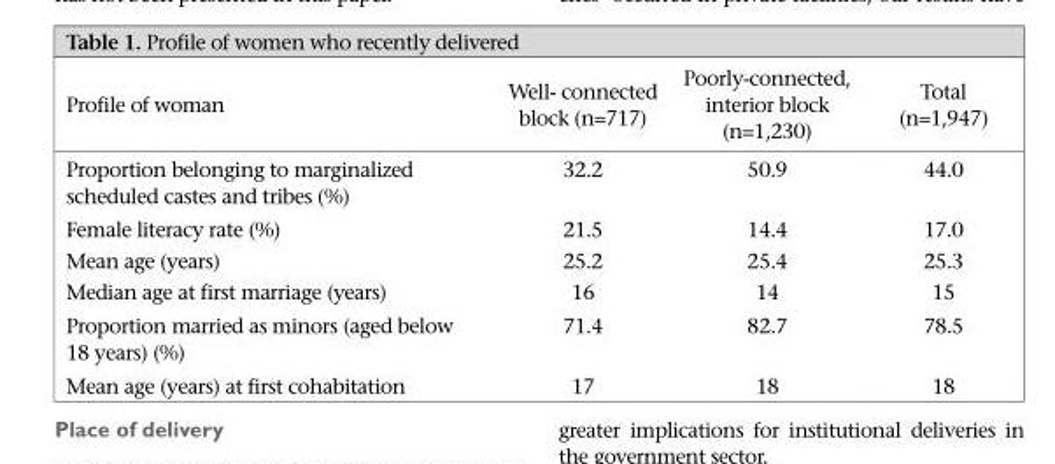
<table><thead><tr><td>Profile of woman</td><td>Well- connected block (n=717)</td><td>Poorly-connected, interior block (n=1,230)</td><td>Total (n=1,947)</td></tr></thead><tbody><tr><td>Proportion belonging to marginalized scheduled castes and tribes (%)</td><td>32.2</td><td>50.9</td><td>44.0</td></tr><tr><td>Female literacy rate (%)</td><td>21.5</td><td>14.4</td><td>17.0</td></tr><tr><td>Mean age (years)</td><td>25.2</td><td>25.4</td><td>25.3</td></tr><tr><td>Median age at first marriage (years)</td><td>16</td><td>14</td><td>15</td></tr><tr><td>Proportion married as minors (aged below 18 years) (%)</td><td>71.4</td><td>82.7</td><td>78.5</td></tr><tr><td>Mean age (years) at first cohabitation</td><td>17</td><td>18</td><td>18</td></tr></tbody></table>